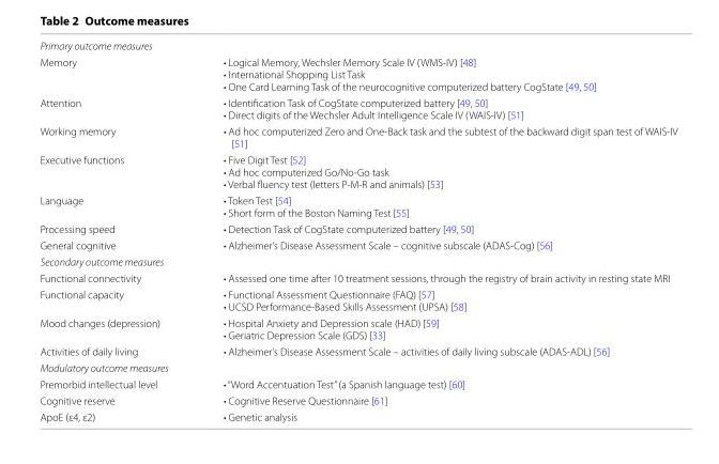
<table><tbody><tr><td colspan="2">Primary outcome measures</td></tr><tr><td>Memory</td><td>• Logical Memory, Wechsler Memory Scale IV (WMS‑IV) [48] • International Shopping List Task • One Card Learning Task of the neurocognitive computerized battery CogState [49, 50]</td></tr><tr><td>Attention</td><td>• Identification Task of CogState computerized battery [49, 50] • Direct digits of the Wechsler Adult Intelligence Scale IV (WAIS‑IV) [51]</td></tr><tr><td>Working memory</td><td>• Ad hoc computerized Zero and One‑Back task and the subtest of the backward digit span test of WAIS‑IV [51]</td></tr><tr><td>Executive functions</td><td>• Five Digit Test [52] • Ad hoc computerized Go/No‑Go task • Verbal fluency test (letters P‑M‑R and animals) [53]</td></tr><tr><td>Language</td><td>• Token Test [54] • Short form of the Boston Naming Test [55]</td></tr><tr><td>Processing speed</td><td>• Detection Task of CogState computerized battery [49, 50]</td></tr><tr><td>General cognitive</td><td>• Alzheimer’s Disease Assessment Scale – cognitive subscale (ADAS‑Cog) [56]</td></tr><tr><td colspan="2">Secondary outcome measures</td></tr><tr><td>Functional connectivity</td><td>• Assessed one time after 10 treatment sessions, through the registry of brain activity in resting state MRI</td></tr><tr><td>Functional capacity</td><td>• Functional Assessment Questionnaire (FAQ) [57] • UCSD Performance‑Based Skills Assessment (UPSA) [58]</td></tr><tr><td>Mood changes (depression)</td><td>• Hospital Anxiety and Depression scale (HAD) [59] • Geriatric Depression Scale (GDS) [33]</td></tr><tr><td>Activities of daily living</td><td>• Alzheimer’s Disease Assessment Scale – activities of daily living subscale (ADAS‑ADL) [56]</td></tr><tr><td colspan="2">Modulatory outcome measures</td></tr><tr><td>Premorbid intellectual level</td><td>• “Word Accentuation Test” (a Spanish language test) [60]</td></tr><tr><td>Cognitive reserve</td><td>• Cognitive Reserve Questionnaire [61]</td></tr><tr><td>ApoE (ε4, ε2)</td><td>• Genetic analysis</td></tr></tbody></table>